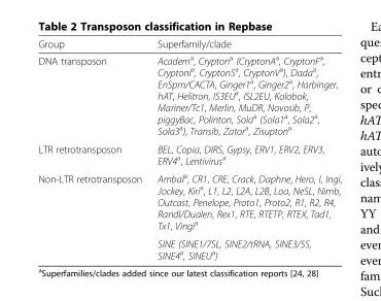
<table><thead><tr><td>Group</td><td>Superfamily/clade</td></tr></thead><tbody><tr><td>DNA transposon</td><td>Academa, Cryptona (CryptonAa, CryptonFa, CryptonIa, CryptonSa, CryptonVa), Dadaa, EnSpm/CACTA, Ginger1a, Ginger2a, Harbinger, hAT, Helitron, IS3EUa, ISL2EU, Kolobok, Mariner/Tc1, Merlin, MuDR, Novosib, P, piggyBac, Polinton, Solaa (Sola1a, Sola2a, Sola3a), Transib, Zatora, Zisuptona</td></tr><tr><td>LTR retrotransposon</td><td>BEL, Copia, DIRS, Gypsy, ERV1, ERV2, ERV3, ERV4<sup>a</sup>, Lentivirus<sup>a</sup></td></tr><tr><td rowspan="2">Non-LTR retrotransposon</td><td>Ambala, CR1, CRE, Crack, Daphne, Hero, I, Ingi, Jockey, Kiria, L1, L2, L2A, L2B, Loa, NeSL, Nimb, Outcast, Penelope, Proto1, Proto2, R1, R2, R4, RandI/Dualen, Rex1, RTE, RTETP, RTEX, Tad1, Tx1, Vingia</td></tr><tr><td>SINE (SINE1/7SL, SINE2/tRNA, SINE3/5S, SINE4<sup>a</sup>, SINEU<sup>a</sup>)</td></tr></tbody></table>